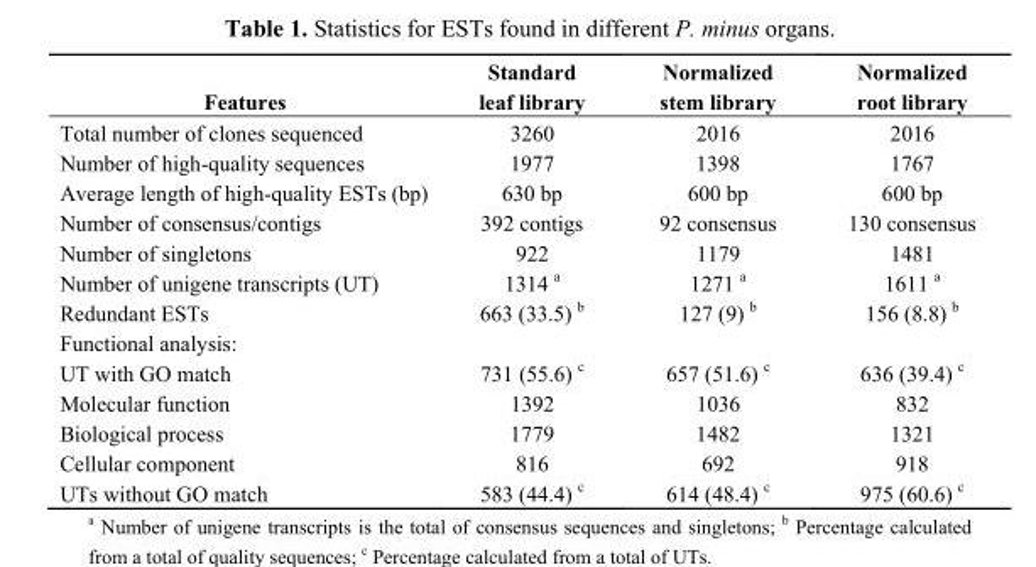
<table><thead><tr><td>Features</td><td>Standard leaf library</td><td>Normalized stem library</td><td>Normalized root library</td></tr></thead><tbody><tr><td>Total number of clones sequenced</td><td>3260</td><td>2016</td><td>2016</td></tr><tr><td>Number of high-quality sequences</td><td>1977</td><td>1398</td><td>1767</td></tr><tr><td>Average length of high-quality ESTs (bp)</td><td>630 bp</td><td>600 bp</td><td>600 bp</td></tr><tr><td>Number of consensus/contigs</td><td>392 contigs</td><td>92 consensus</td><td>130 consensus</td></tr><tr><td>Number of singletons</td><td>922</td><td>1179</td><td>1481</td></tr><tr><td>Number of unigene transcripts (UT)</td><td>1314 a</td><td>1271 a</td><td>1611 a</td></tr><tr><td>Redundant ESTs</td><td>663 (33.5) b</td><td>127 (9) b</td><td>156 (8.8) b</td></tr><tr><td colspan="4">Functional analysis:</td></tr><tr><td>UT with GO match</td><td>731 (55.6) c</td><td>657 (51.6) c</td><td>636 (39.4) c</td></tr><tr><td>Molecular function</td><td>1392</td><td>1036</td><td>832</td></tr><tr><td>Biological process</td><td>1779</td><td>1482</td><td>1321</td></tr><tr><td>Cellular component</td><td>816</td><td>692</td><td>918</td></tr><tr><td>UTs without GO match</td><td>583 (44.4) c</td><td>614 (48.4) c</td><td>975 (60.6) c</td></tr></tbody></table>